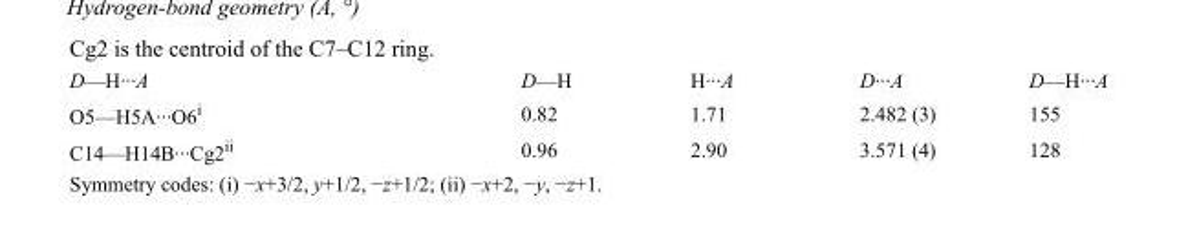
<table><tbody><tr><td>D—H···A</td><td>D—H</td><td>H···A</td><td>D···A</td><td>D—H···A</td></tr><tr><td>O5—H5A···O6<sup>i</sup></td><td>0.82</td><td>1.71</td><td>2.482 (3)</td><td>155</td></tr><tr><td>C14—H14B···Cg2<sup>ii</sup></td><td>0.96</td><td>2.90</td><td>3.571 (4)</td><td>128</td></tr></tbody></table>